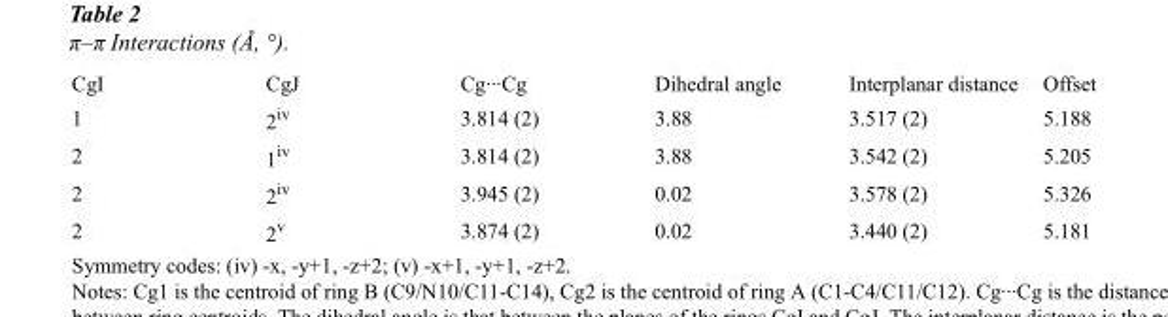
<table><tbody><tr><td>CgI</td><td>CgJ</td><td>Cg···Cg</td><td>Dihedral angle</td><td>Interplanar distance</td><td>Offset</td></tr><tr><td>1</td><td>2<sup>iv</sup></td><td>3.814 (2)</td><td>3.88</td><td>3.517 (2)</td><td>5.188</td></tr><tr><td>2</td><td>1<sup>iv</sup></td><td>3.814 (2)</td><td>3.88</td><td>3.542 (2)</td><td>5.205</td></tr><tr><td>2</td><td>2<sup>iv</sup></td><td>3.945 (2)</td><td>0.02</td><td>3.578 (2)</td><td>5.326</td></tr><tr><td>2</td><td>2<sup>v</sup></td><td>3.874 (2)</td><td>0.02</td><td>3.440 (2)</td><td>5.181</td></tr></tbody></table>